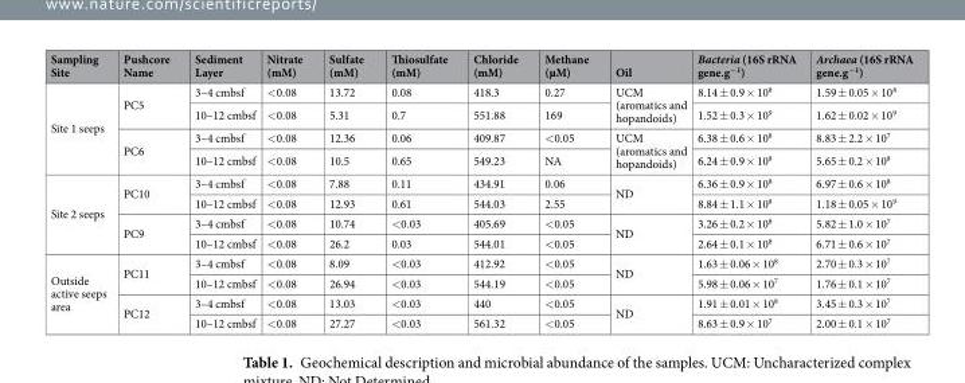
<table><thead><tr><td>Sampling Site</td><td>Pushcore Name</td><td>Sediment Layer</td><td>Nitrate (mM)</td><td>Sulfate (mM)</td><td>Thiosulfate (mM)</td><td>Chloride (mM)</td><td>Methane (µM)</td><td>Oil</td><td>Bacteria (16S rRNA gene.g<sup>−1</sup>)</td><td>Archaea (16S rRNA gene.g<sup>−1</sup>)</td></tr></thead><tbody><tr><td rowspan="4">Site 1 seeps</td><td rowspan="2">PC5</td><td>3–4 cmbsf</td><td>&lt;0.08</td><td>13.72</td><td>0.08</td><td>418.3</td><td>0.27</td><td rowspan="2">UCM (aromatics and hopandoids)</td><td>8.14 ± 0.9 × 10<sup>8</sup></td><td>1.59 ± 0.05 × 10<sup>8</sup></td></tr><tr><td>10–12 cmbsf</td><td>&lt;0.08</td><td>5.31</td><td>0.7</td><td>551.88</td><td>169</td><td>1.52 ± 0.3 × 10<sup>9</sup></td><td>1.62 ± 0.02 × 10<sup>9</sup></td></tr><tr><td rowspan="2">PC6</td><td>3–4 cmbsf</td><td>&lt;0.08</td><td>12.36</td><td>0.06</td><td>409.87</td><td>&lt;0.05</td><td rowspan="2">UCM (aromatics and hopandoids)</td><td>6.38 ± 0.6 × 10<sup>8</sup></td><td>8.83 ± 2.2 × 10<sup>7</sup></td></tr><tr><td>10–12 cmbsf</td><td>&lt;0.08</td><td>10.5</td><td>0.65</td><td>549.23</td><td>NA</td><td>6.24 ± 0.9 × 10<sup>8</sup></td><td>5.65 ± 0.2 × 10<sup>8</sup></td></tr><tr><td rowspan="4">Site 2 seeps</td><td rowspan="2">PC10</td><td>3–4 cmbsf</td><td>&lt;0.08</td><td>7.88</td><td>0.11</td><td>434.91</td><td>0.06</td><td rowspan="2">ND</td><td>6.36 ± 0.9 × 10<sup>8</sup></td><td>6.97 ± 0.6 × 10<sup>8</sup></td></tr><tr><td>10–12 cmbsf</td><td>&lt;0.08</td><td>12.93</td><td>0.61</td><td>544.03</td><td>2.55</td><td>8.84 ± 1.1 × 10<sup>8</sup></td><td>1.18 ± 0.05 × 10<sup>9</sup></td></tr><tr><td rowspan="2">PC9</td><td>3–4 cmbsf</td><td>&lt;0.08</td><td>10.74</td><td>&lt;0.03</td><td>405.69</td><td>&lt;0.05</td><td rowspan="2">ND</td><td>3.26 ± 0.2 × 10<sup>8</sup></td><td>5.82 ± 1.0 × 10<sup>7</sup></td></tr><tr><td>10–12 cmbsf</td><td>&lt;0.08</td><td>26.2</td><td>0.03</td><td>544.01</td><td>&lt;0.05</td><td>2.64 ± 0.1 × 10<sup>8</sup></td><td>6.71 ± 0.6 × 10<sup>7</sup></td></tr><tr><td rowspan="4">Outside active seeps area</td><td rowspan="2">PC11</td><td>3–4 cmbsf</td><td>&lt;0.08</td><td>8.09</td><td>&lt;0.03</td><td>412.92</td><td>&lt;0.05</td><td rowspan="2">ND</td><td>1.63 ± 0.06 × 10<sup>8</sup></td><td>2.70 ± 0.3 × 10<sup>7</sup></td></tr><tr><td>10–12 cmbsf</td><td>&lt;0.08</td><td>26.94</td><td>&lt;0.03</td><td>544.19</td><td>&lt;0.05</td><td>5.98 ± 0.06 × 10<sup>7</sup></td><td>1.76 ± 0.1 × 10<sup>7</sup></td></tr><tr><td rowspan="2">PC12</td><td>3–4 cmbsf</td><td>&lt;0.08</td><td>13.03</td><td>&lt;0.03</td><td>440</td><td>&lt;0.05</td><td rowspan="2">ND</td><td>1.91 ± 0.01 × 10<sup>8</sup></td><td>3.45 ± 0.3 × 10<sup>7</sup></td></tr><tr><td>10–12 cmbsf</td><td>&lt;0.08</td><td>27.27</td><td>&lt;0.03</td><td>561.32</td><td>&lt;0.05</td><td>8.63 ± 0.9 × 10<sup>7</sup></td><td>2.00 ± 0.1 × 10<sup>7</sup></td></tr></tbody></table>